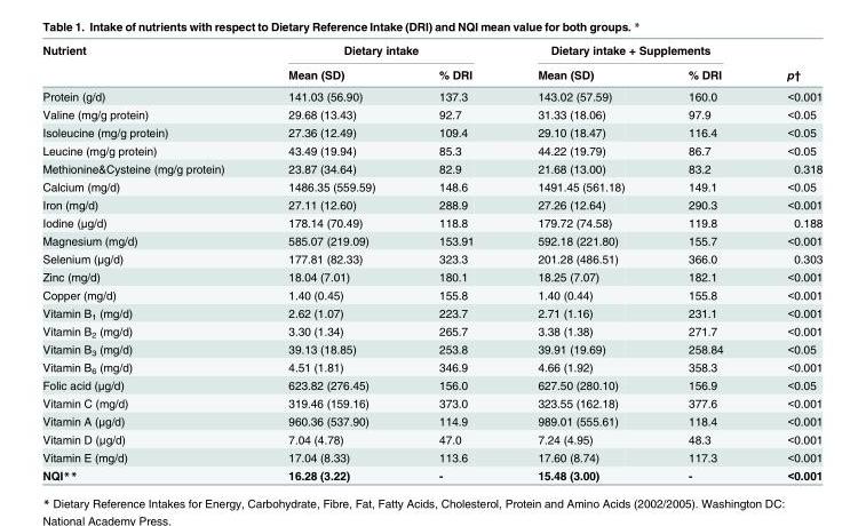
<table><thead><tr><td rowspan="2">Nutrient</td><td colspan="2">Dietary intake</td><td colspan="2">Dietary intake + Supplements</td><td rowspan="2">p†</td></tr><tr><td>Mean (SD)</td><td>% DRI</td><td>Mean (SD)</td><td>% DRI</td></tr></thead><tbody><tr><td>Protein (g/d)</td><td>141.03 (56.90)</td><td>137.3</td><td>143.02 (57.59)</td><td>160.0</td><td>&lt;0.001</td></tr><tr><td>Valine (mg/g protein)</td><td>29.68 (13.43)</td><td>92.7</td><td>31.33 (18.06)</td><td>97.9</td><td>&lt;0.05</td></tr><tr><td>Isoleucine (mg/g protein)</td><td>27.36 (12.49)</td><td>109.4</td><td>29.10 (18.47)</td><td>116.4</td><td>&lt;0.05</td></tr><tr><td>Leucine (mg/g protein)</td><td>43.49 (19.94)</td><td>85.3</td><td>44.22 (19.79)</td><td>86.7</td><td>&lt;0.05</td></tr><tr><td>Methionine&amp;Cysteine (mg/g protein)</td><td>23.87 (34.64)</td><td>82.9</td><td>21.68 (13.00)</td><td>83.2</td><td>0.318</td></tr><tr><td>Calcium (mg/d)</td><td>1486.35 (559.59)</td><td>148.6</td><td>1491.45 (561.18)</td><td>149.1</td><td>&lt;0.05</td></tr><tr><td>Iron (mg/d)</td><td>27.11 (12.60)</td><td>288.9</td><td>27.26 (12.64)</td><td>290.3</td><td>&lt;0.001</td></tr><tr><td>Iodine (µg/d)</td><td>178.14 (70.49)</td><td>118.8</td><td>179.72 (74.58)</td><td>119.8</td><td>0.188</td></tr><tr><td>Magnesium (mg/d)</td><td>585.07 (219.09)</td><td>153.91</td><td>592.18 (221.80)</td><td>155.7</td><td>&lt;0.001</td></tr><tr><td>Selenium (µg/d)</td><td>177.81 (82.33)</td><td>323.3</td><td>201.28 (486.51)</td><td>366.0</td><td>0.303</td></tr><tr><td>Zinc (mg/d)</td><td>18.04 (7.01)</td><td>180.1</td><td>18.25 (7.07)</td><td>182.1</td><td>&lt;0.001</td></tr><tr><td>Copper (mg/d)</td><td>1.40 (0.45)</td><td>155.8</td><td>1.40 (0.44)</td><td>155.8</td><td>&lt;0.001</td></tr><tr><td>Vitamin B<sub>1</sub> (mg/d)</td><td>2.62 (1.07)</td><td>223.7</td><td>2.71 (1.16)</td><td>231.1</td><td>&lt;0.001</td></tr><tr><td>Vitamin B<sub>2</sub> (mg/d)</td><td>3.30 (1.34)</td><td>265.7</td><td>3.38 (1.38)</td><td>271.7</td><td>&lt;0.001</td></tr><tr><td>Vitamin B<sub>3</sub> (mg/d)</td><td>39.13 (18.85)</td><td>253.8</td><td>39.91 (19.69)</td><td>258.84</td><td>&lt;0.05</td></tr><tr><td>Vitamin B<sub>6</sub> (mg/d)</td><td>4.51 (1.81)</td><td>346.9</td><td>4.66 (1.92)</td><td>358.3</td><td>&lt;0.001</td></tr><tr><td>Folic acid (µg/d)</td><td>623.82 (276.45)</td><td>156.0</td><td>627.50 (280.10)</td><td>156.9</td><td>&lt;0.05</td></tr><tr><td>Vitamin C (mg/d)</td><td>319.46 (159.16)</td><td>373.0</td><td>323.55 (162.18)</td><td>377.6</td><td>&lt;0.001</td></tr><tr><td>Vitamin A (µg/d)</td><td>960.36 (537.90)</td><td>114.9</td><td>989.01 (555.61)</td><td>118.4</td><td>&lt;0.001</td></tr><tr><td>Vitamin D (µg/d)</td><td>7.04 (4.78)</td><td>47.0</td><td>7.24 (4.95)</td><td>48.3</td><td>&lt;0.001</td></tr><tr><td>Vitamin E (mg/d)</td><td>17.04 (8.33)</td><td>113.6</td><td>17.60 (8.74)</td><td>117.3</td><td>&lt;0.001</td></tr><tr><td>NQI**</td><td>16.28 (3.22)</td><td>-</td><td>15.48 (3.00)</td><td>-</td><td>&lt;0.001</td></tr></tbody></table>